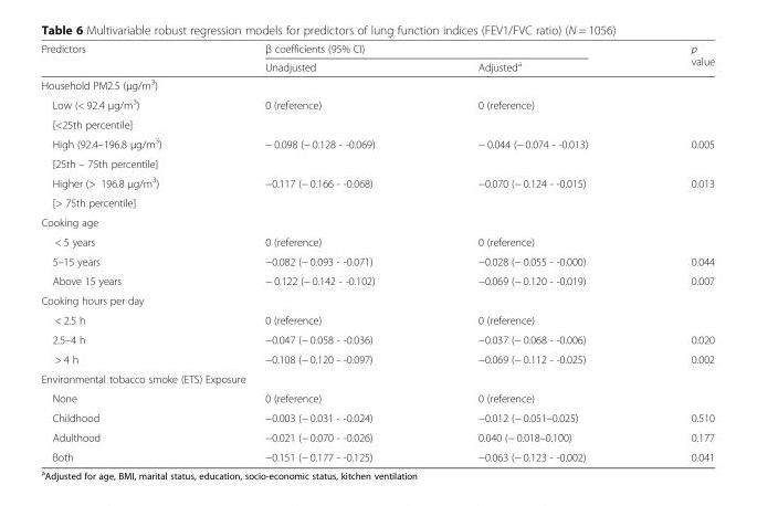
<table><thead><tr><td rowspan="2">Predictors</td><td colspan="2">β coefficients (95% CI)</td><td rowspan="2">p value</td></tr><tr><td>Unadjusted</td><td>Adjusted<sup>a</sup></td></tr></thead><tbody><tr><td colspan="4">Household PM2.5 (μg/m<sup>3</sup>)</td></tr><tr><td>Low (&lt; 92.4 μg/m<sup>3</sup>)</td><td rowspan="2">0 (reference)</td><td rowspan="2">0 (reference)</td><td rowspan="2"></td></tr><tr><td>[&lt;25th percentile]</td></tr><tr><td>High (92.4–196.8 μg/m<sup>3</sup>)</td><td rowspan="2">− 0.098 (− 0.128 - -0.069)</td><td rowspan="2">− 0.044 (− 0.074 - -0.013)</td><td rowspan="2">0.005</td></tr><tr><td>[25th – 75th percentile]</td></tr><tr><td>Higher (&gt; 196.8 μg/m<sup>3</sup>)</td><td rowspan="2">−0.117 (− 0.166 - -0.068)</td><td rowspan="2">−0.070 (− 0.124 - -0.015)</td><td rowspan="2">0.013</td></tr><tr><td>[&gt; 75th percentile]</td></tr><tr><td colspan="4">Cooking age</td></tr><tr><td>&lt; 5 years</td><td>0 (reference)</td><td>0 (reference)</td><td></td></tr><tr><td>5–15 years</td><td>−0.082 (− 0.093 - -0.071)</td><td>−0.028 (− 0.055 - -0.000)</td><td>0.044</td></tr><tr><td>Above 15 years</td><td>− 0.122 (− 0.142 - -0.102)</td><td>−0.069 (− 0.120 - -0.019)</td><td>0.007</td></tr><tr><td colspan="4">Cooking hours per day</td></tr><tr><td>&lt; 2.5 h</td><td>0 (reference)</td><td>0 (reference)</td><td></td></tr><tr><td>2.5–4 h</td><td>−0.047 (− 0.058 - -0.036)</td><td>−0.037 (− 0.068 - -0.006)</td><td>0.020</td></tr><tr><td>&gt; 4 h</td><td>−0.108 (− 0.120 - -0.097)</td><td>−0.069 (− 0.112 - -0.025)</td><td>0.002</td></tr><tr><td colspan="4">Environmental tobacco smoke (ETS) Exposure</td></tr><tr><td>None</td><td>0 (reference)</td><td>0 (reference)</td><td></td></tr><tr><td>Childhood</td><td>−0.003 (− 0.031 - -0.024)</td><td>−0.012 (− 0.051–0.025)</td><td>0.510</td></tr><tr><td>Adulthood</td><td>−0.021 (− 0.070 - -0.026)</td><td>0.040 (− 0.018–0.100)</td><td>0.177</td></tr><tr><td>Both</td><td>−0.151 (− 0.177 - -0.125)</td><td>−0.063 (− 0.123 - -0.002)</td><td>0.041</td></tr></tbody></table>